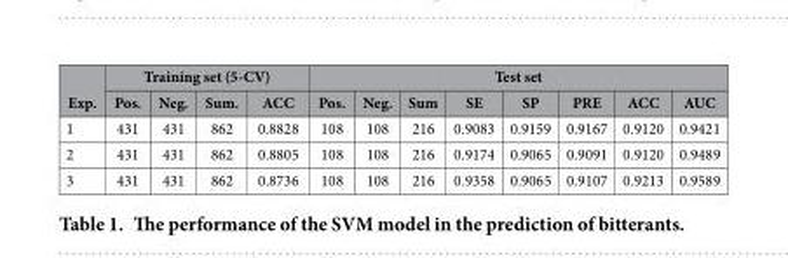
<table><thead><tr><td rowspan="2">Exp.</td><td colspan="4">Training set (5-CV)</td><td colspan="8">Test set</td></tr><tr><td>Pos.</td><td>Neg.</td><td>Sum.</td><td>ACC</td><td>Pos.</td><td>Neg.</td><td>Sum</td><td>SE</td><td>SP</td><td>PRE</td><td>ACC</td><td>AUC</td></tr></thead><tbody><tr><td>1</td><td>431</td><td>431</td><td>862</td><td>0.8828</td><td>108</td><td>108</td><td>216</td><td>0.9083</td><td>0.9159</td><td>0.9167</td><td>0.9120</td><td>0.9421</td></tr><tr><td>2</td><td>431</td><td>431</td><td>862</td><td>0.8805</td><td>108</td><td>108</td><td>216</td><td>0.9174</td><td>0.9065</td><td>0.9091</td><td>0.9120</td><td>0.9489</td></tr><tr><td>3</td><td>431</td><td>431</td><td>862</td><td>0.8736</td><td>108</td><td>108</td><td>216</td><td>0.9358</td><td>0.9065</td><td>0.9107</td><td>0.9213</td><td>0.9589</td></tr></tbody></table>